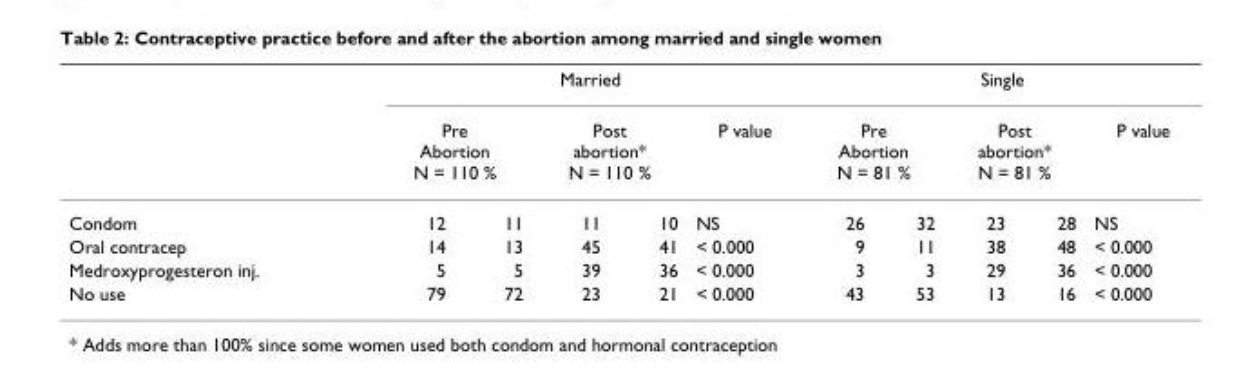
<table><thead><tr><td rowspan="3">Condom</td><td colspan="5">Married</td><td colspan="5">Single</td></tr><tr><td colspan="2">Pre Abortion N = 110 %</td><td colspan="2">Post abortion* N = 110 %</td><td rowspan="2">P value NS</td><td colspan="2">Pre Abortion N = 81 %</td><td colspan="2">Post abortion* N = 81 %</td><td rowspan="2">P value NS</td></tr><tr><td>12</td><td>11</td><td>11</td><td>10</td><td>26</td><td>32</td><td>23</td><td>28</td></tr></thead><tbody><tr><td>Oral contracep</td><td>14</td><td>13</td><td>45</td><td>41</td><td>&lt; 0.000</td><td>9</td><td>11</td><td>38</td><td>48</td><td>&lt; 0.000</td></tr><tr><td>Medroxyprogesteron inj.</td><td>5</td><td>5</td><td>39</td><td>36</td><td>&lt; 0.000</td><td>3</td><td>3</td><td>29</td><td>36</td><td>&lt; 0.000</td></tr><tr><td>No use</td><td>79</td><td>72</td><td>23</td><td>21</td><td>&lt; 0.000</td><td>43</td><td>53</td><td>13</td><td>16</td><td>&lt; 0.000</td></tr></tbody></table>